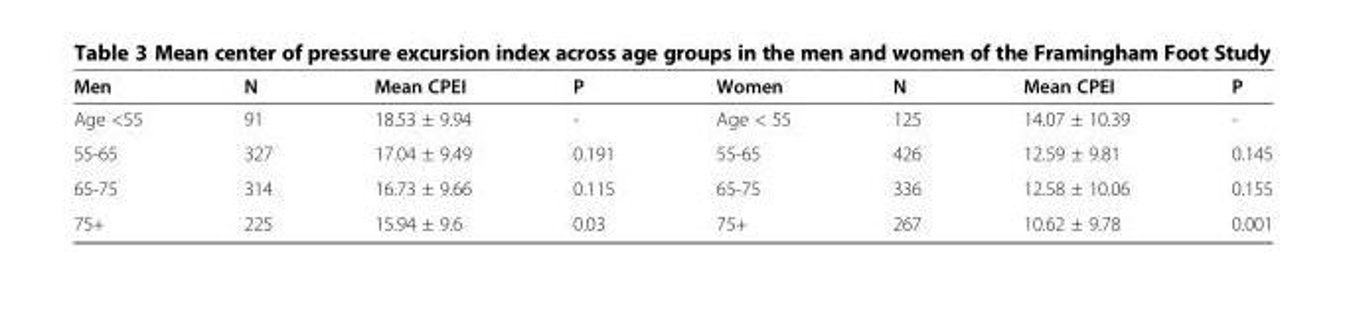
<table><thead><tr><td>Men</td><td>N</td><td>Mean CPEI</td><td>P</td><td>Women</td><td>N</td><td>Mean CPEI</td><td>P</td></tr></thead><tbody><tr><td>Age &lt;55</td><td>91</td><td>18.53 ± 9.94</td><td>-</td><td>Age &lt; 55</td><td>125</td><td>14.07 ± 10.39</td><td>-</td></tr><tr><td>55-65</td><td>327</td><td>17.04 ± 9.49</td><td>0.191</td><td>55-65</td><td>426</td><td>12.59 ± 9.81</td><td>0.145</td></tr><tr><td>65-75</td><td>314</td><td>16.73 ± 9.66</td><td>0.115</td><td>65-75</td><td>336</td><td>12.58 ± 10.06</td><td>0.155</td></tr><tr><td>75+</td><td>225</td><td>15.94 ± 9.6</td><td>0.03</td><td>75+</td><td>267</td><td>10.62 ± 9.78</td><td>0.001</td></tr></tbody></table>